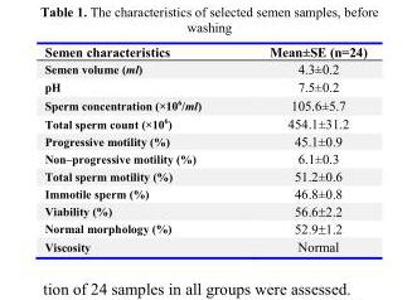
<table><thead><tr><td>Semen characteristics</td><td>Mean±SE (n=24)</td></tr></thead><tbody><tr><td>Semen volume (ml)</td><td>4.3±0.2</td></tr><tr><td>pH</td><td>7.5±0.2</td></tr><tr><td>Sperm concentration (×10<sup>6</sup>/ml)</td><td>105.6±5.7</td></tr><tr><td>Total sperm count (×10<sup>6</sup>)</td><td>454.1±31.2</td></tr><tr><td>Progressive motility (%)</td><td>45.1±0.9</td></tr><tr><td>Non–progressive motility (%)</td><td>6.1±0.3</td></tr><tr><td>Total sperm motility (%)</td><td>51.2±0.6</td></tr><tr><td>Immotile sperm (%)</td><td>46.8±0.8</td></tr><tr><td>Viability (%)</td><td>56.6±2.2</td></tr><tr><td>Normal morphology (%)</td><td>52.9±1.2</td></tr><tr><td>Viscosity</td><td>Normal</td></tr></tbody></table>